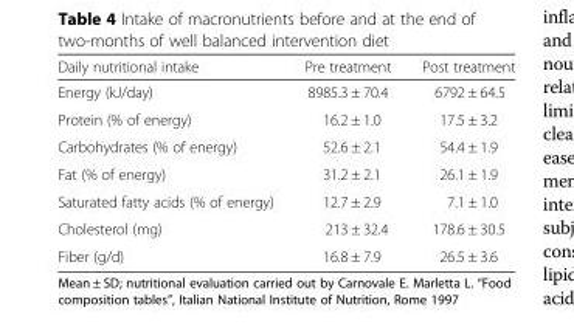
<table><thead><tr><td>Daily nutritional intake</td><td>Pre treatment</td><td>Post treatment</td></tr></thead><tbody><tr><td>Energy (kJ/day)</td><td>8985.3 ± 70.4</td><td>6792 ± 64.5</td></tr><tr><td>Protein (% of energy)</td><td>16.2 ± 1.0</td><td>17.5 ± 3.2</td></tr><tr><td>Carbohydrates (% of energy)</td><td>52.6 ± 2.1</td><td>54.4 ± 1.9</td></tr><tr><td>Fat (% of energy)</td><td>31.2 ± 2.1</td><td>26.1 ± 1.9</td></tr><tr><td>Saturated fatty acids (% of energy)</td><td>12.7 ± 2.9</td><td>7.1 ± 1.0</td></tr><tr><td>Cholesterol (mg)</td><td>213 ± 32.4</td><td>178.6 ± 30.5</td></tr><tr><td>Fiber (g/d)</td><td>16.8 ± 7.9</td><td>26.5 ± 3.6</td></tr></tbody></table>